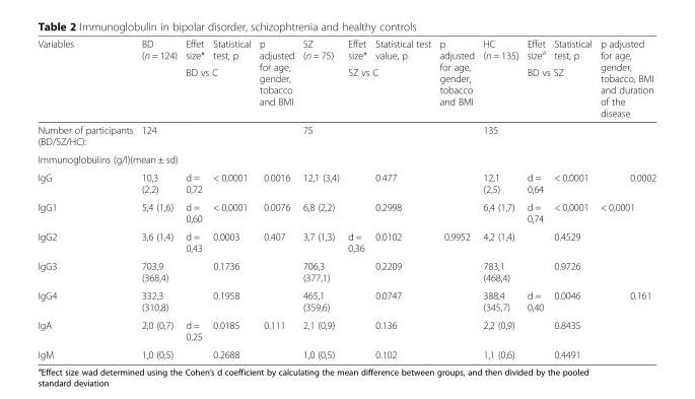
<table><thead><tr><td rowspan="2">Variables</td><td rowspan="2">BD (n = 124)</td><td>Effet size*</td><td>Statistical test, p</td><td rowspan="2">p adjusted for age, gender, tobacco and BMI</td><td rowspan="2">SZ (n = 75)</td><td>Effet size*</td><td>Statistical test value, p</td><td rowspan="2">p adjusted for age, gender, tobacco and BMI</td><td rowspan="2">HC (n = 135)</td><td>Effet size<sup>a</sup></td><td>Statistical test, p</td><td rowspan="2">p adjusted for age, gender, tobacco, BMI and duration of the disease</td></tr><tr><td colspan="2">BD vs C</td><td colspan="2">SZ vs C</td><td colspan="2">BD vs SZ</td></tr></thead><tbody><tr><td>Number of participants (BD/SZ/HC):</td><td>124</td><td></td><td></td><td></td><td>75</td><td></td><td></td><td></td><td>135</td><td></td><td></td><td></td></tr><tr><td colspan="13">Immunoglobulins (g/l)(mean ± sd)</td></tr><tr><td>IgG</td><td>10,3 (2,2)</td><td>d = 0,72</td><td>&lt; 0,0001</td><td>0.0016</td><td>12,1 (3,4)</td><td></td><td>0.477</td><td></td><td>12,1 (2,5)</td><td>d = 0,64</td><td>&lt; 0,0001</td><td>0.0002</td></tr><tr><td>IgG1</td><td>5,4 (1,6)</td><td>d = 0,60</td><td>&lt; 0,0001</td><td>0.0076</td><td>6,8 (2,2)</td><td></td><td>0.2998</td><td></td><td>6,4 (1,7)</td><td>d = 0,74</td><td>&lt; 0,0001</td><td>&lt; 0,0001</td></tr><tr><td>IgG2</td><td>3,6 (1,4)</td><td>d = 0,43</td><td>0.0003</td><td>0.407</td><td>3,7 (1,3)</td><td>d = 0,36</td><td>0.0102</td><td>0.9952</td><td>4,2 (1,4)</td><td></td><td>0.4529</td><td></td></tr><tr><td>IgG3</td><td>703,9 (368,4)</td><td></td><td>0.1736</td><td></td><td>706,3 (377,1)</td><td></td><td>0.2209</td><td></td><td>783,1 (468,4)</td><td></td><td>0.9726</td><td></td></tr><tr><td>IgG4</td><td>332,3 (310,8)</td><td></td><td>0.1958</td><td></td><td>465,1 (359,6)</td><td></td><td>0.0747</td><td></td><td>388,4 (345,7)</td><td>d = 0,40</td><td>0.0046</td><td>0.161</td></tr><tr><td>IgA</td><td>2,0 (0,7)</td><td>d = 0,25</td><td>0.0185</td><td>0.111</td><td>2,1 (0,9)</td><td></td><td>0.136</td><td></td><td>2,2 (0,9)</td><td></td><td>0.8435</td><td></td></tr><tr><td>IgM</td><td>1,0 (0,5)</td><td></td><td>0.2688</td><td></td><td>1,0 (0,5)</td><td></td><td>0.102</td><td></td><td>1,1 (0,6)</td><td></td><td>0.4491</td><td></td></tr></tbody></table>